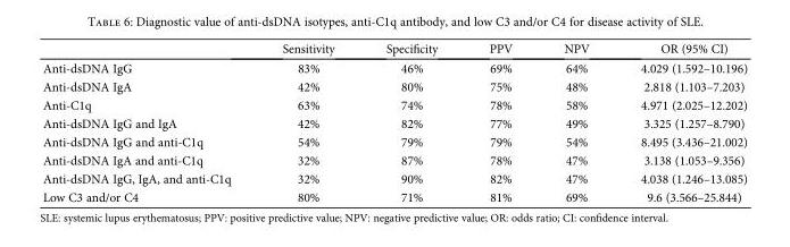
<table><thead><tr><td></td><td>Sensitivity</td><td>Specificity</td><td>PPV</td><td>NPV</td><td>OR (95% CI)</td></tr></thead><tbody><tr><td>Anti-dsDNA IgG</td><td>83%</td><td>46%</td><td>69%</td><td>64%</td><td>4.029 (1.592–10.196)</td></tr><tr><td>Anti-dsDNA IgA</td><td>42%</td><td>80%</td><td>75%</td><td>48%</td><td>2.818 (1.103–7.203)</td></tr><tr><td>Anti-C1q</td><td>63%</td><td>74%</td><td>78%</td><td>58%</td><td>4.971 (2.025–12.202)</td></tr><tr><td>Anti-dsDNA IgG and IgA</td><td>42%</td><td>82%</td><td>77%</td><td>49%</td><td>3.325 (1.257–8.790)</td></tr><tr><td>Anti-dsDNA IgG and anti-C1q</td><td>54%</td><td>79%</td><td>79%</td><td>54%</td><td>8.495 (3.436–21.002)</td></tr><tr><td>Anti-dsDNA IgA and anti-C1q</td><td>32%</td><td>87%</td><td>78%</td><td>47%</td><td>3.138 (1.053–9.356)</td></tr><tr><td>Anti-dsDNA IgG, IgA, and anti-C1q</td><td>32%</td><td>90%</td><td>82%</td><td>47%</td><td>4.038 (1.246–13.085)</td></tr><tr><td>Low C3 and/or C4</td><td>80%</td><td>71%</td><td>81%</td><td>69%</td><td>9.6 (3.566–25.844)</td></tr></tbody></table>